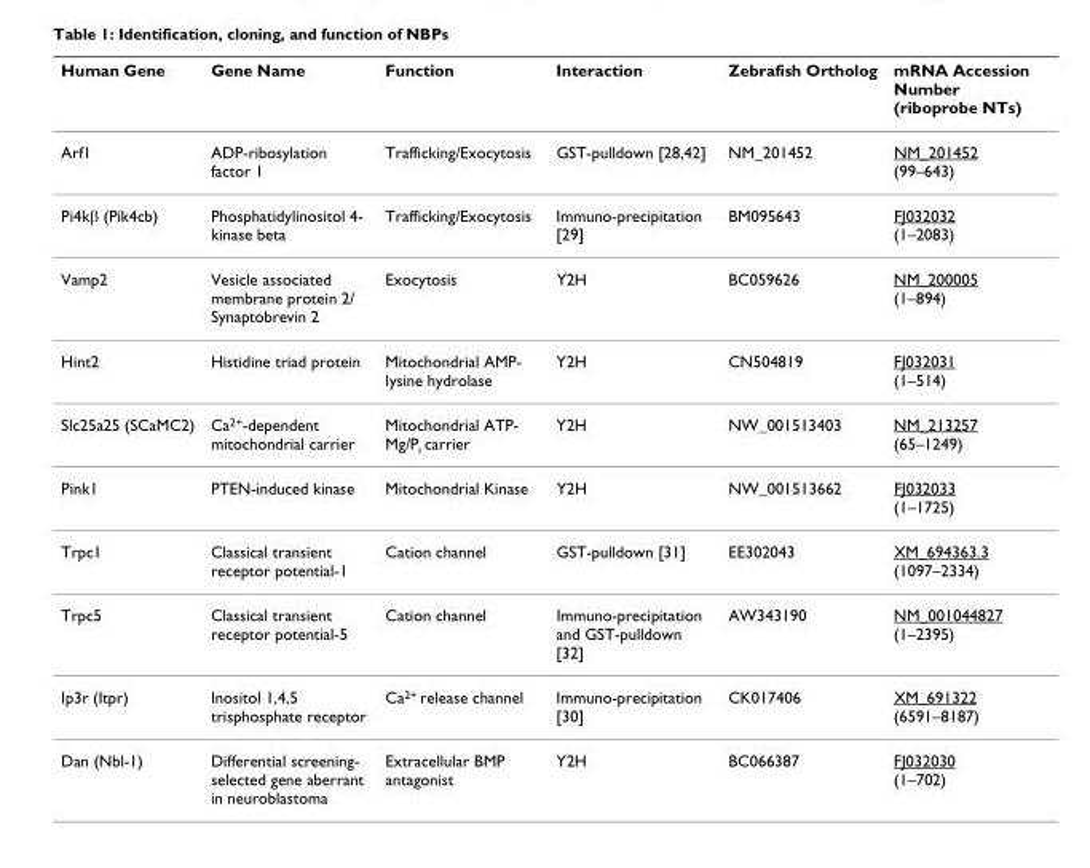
<table><thead><tr><td>Human Gene</td><td>Gene Name</td><td>Function</td><td>Interaction</td><td>Zebrafish Ortholog</td><td>mRNA Accession Number (riboprobe NTs)</td></tr></thead><tbody><tr><td>Arf1</td><td>ADP-ribosylation factor 1</td><td>Trafficking/Exocytosis</td><td>GST-pulldown [28,42]</td><td>NM_201452</td><td>NM_201452 (99–643)</td></tr><tr><td>Pi4kβ (Pik4cb)</td><td>Phosphatidylinositol 4- kinase beta</td><td>Trafficking/Exocytosis</td><td>Immuno-precipitation [29]</td><td>BM095643</td><td>FJ032032 (1–2083)</td></tr><tr><td>Vamp2</td><td>Vesicle associated membrane protein 2/ Synaptobrevin 2</td><td>Exocytosis</td><td>Y2H</td><td>BC059626</td><td>NM_200005 (1–894)</td></tr><tr><td>Hint2</td><td>Histidine triad protein</td><td>Mitochondrial AMP- lysine hydrolase</td><td>Y2H</td><td>CN504819</td><td>FJ032031 (1–514)</td></tr><tr><td>Slc25a25 (SCaMC2)</td><td>Ca<sup>2+</sup>-dependent mitochondrial carrier</td><td>Mitochondrial ATP- Mg/P<sub>i</sub> carrier</td><td>Y2H</td><td>NW_001513403</td><td>NM_213257 (65–1249)</td></tr><tr><td>Pink1</td><td>PTEN-induced kinase</td><td>Mitochondrial Kinase</td><td>Y2H</td><td>NW_001513662</td><td>FJ032033 (1–1725)</td></tr><tr><td>Trpc1</td><td>Classical transient receptor potential-1</td><td>Cation channel</td><td>GST-pulldown [31]</td><td>EE302043</td><td>XM_694363.3 (1097–2334)</td></tr><tr><td>Trpc5</td><td>Classical transient receptor potential-5</td><td>Cation channel</td><td>Immuno-precipitation and GST-pulldown [32]</td><td>AW343190</td><td>NM_001044827 (1–2395)</td></tr><tr><td>Ip3r (Itpr)</td><td>Inositol 1,4,5 trisphosphate receptor</td><td>Ca<sup>2+</sup> release channel</td><td>Immuno-precipitation [30]</td><td>CK017406</td><td>XM_691322 (6591–8187)</td></tr><tr><td>Dan (Nbl-1)</td><td>Differential screening- selected gene aberrant in neuroblastoma</td><td>Extracellular BMP antagonist</td><td>Y2H</td><td>BC066387</td><td>FJ032030 (1–702)</td></tr></tbody></table>